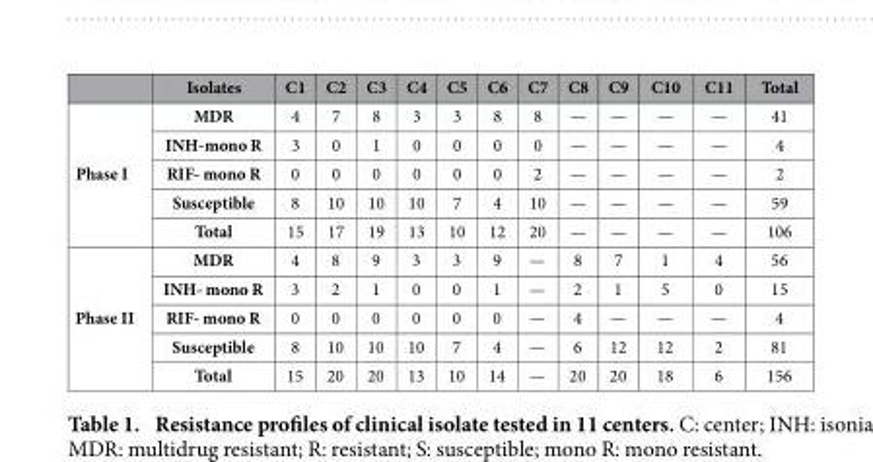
<table><thead><tr><td></td><td>Isolates</td><td>C1</td><td>C2</td><td>C3</td><td>C4</td><td>C5</td><td>C6</td><td>C7</td><td>C8</td><td>C9</td><td>C10</td><td>C11</td><td>Total</td></tr></thead><tbody><tr><td rowspan="5">Phase I</td><td>MDR</td><td>4</td><td>7</td><td>8</td><td>3</td><td>3</td><td>8</td><td>8</td><td>—</td><td>—</td><td>—</td><td>—</td><td>41</td></tr><tr><td>INH-mono R</td><td>3</td><td>0</td><td>1</td><td>0</td><td>0</td><td>0</td><td>0</td><td>—</td><td>—</td><td>—</td><td>—</td><td>4</td></tr><tr><td>RIF- mono R</td><td>0</td><td>0</td><td>0</td><td>0</td><td>0</td><td>0</td><td>2</td><td>—</td><td>—</td><td>—</td><td>—</td><td>2</td></tr><tr><td>Susceptible</td><td>8</td><td>10</td><td>10</td><td>10</td><td>7</td><td>4</td><td>10</td><td>—</td><td>—</td><td>—</td><td>—</td><td>59</td></tr><tr><td>Total</td><td>15</td><td>17</td><td>19</td><td>13</td><td>10</td><td>12</td><td>20</td><td>—</td><td>—</td><td>—</td><td>—</td><td>106</td></tr><tr><td rowspan="5">Phase II</td><td>MDR</td><td>4</td><td>8</td><td>9</td><td>3</td><td>3</td><td>9</td><td>—</td><td>8</td><td>7</td><td>1</td><td>4</td><td>56</td></tr><tr><td>INH- mono R</td><td>3</td><td>2</td><td>1</td><td>0</td><td>0</td><td>1</td><td>—</td><td>2</td><td>1</td><td>5</td><td>0</td><td>15</td></tr><tr><td>RIF- mono R</td><td>0</td><td>0</td><td>0</td><td>0</td><td>0</td><td>0</td><td>—</td><td>4</td><td>—</td><td>—</td><td>—</td><td>4</td></tr><tr><td>Susceptible</td><td>8</td><td>10</td><td>10</td><td>10</td><td>7</td><td>4</td><td>—</td><td>6</td><td>12</td><td>12</td><td>2</td><td>81</td></tr><tr><td>Total</td><td>15</td><td>20</td><td>20</td><td>13</td><td>10</td><td>14</td><td>—</td><td>20</td><td>20</td><td>18</td><td>6</td><td>156</td></tr></tbody></table>